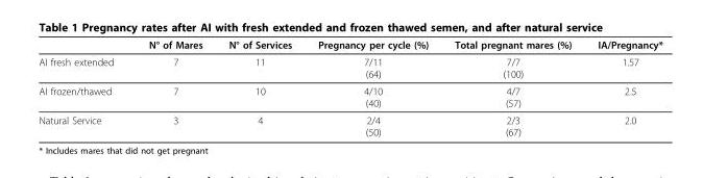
<table><thead><tr><td></td><td>N° of Mares</td><td>N° of Services</td><td>Pregnancy per cycle (%)</td><td>Total pregnant mares (%)</td><td>IA/Pregnancy*</td></tr></thead><tbody><tr><td>AI fresh extended</td><td>7</td><td>11</td><td>7/11 (64)</td><td>7/7 (100)</td><td>1.57</td></tr><tr><td>AI frozen/thawed</td><td>7</td><td>10</td><td>4/10 (40)</td><td>4/7 (57)</td><td>2.5</td></tr><tr><td>Natural Service</td><td>3</td><td>4</td><td>2/4 (50)</td><td>2/3 (67)</td><td>2.0</td></tr></tbody></table>